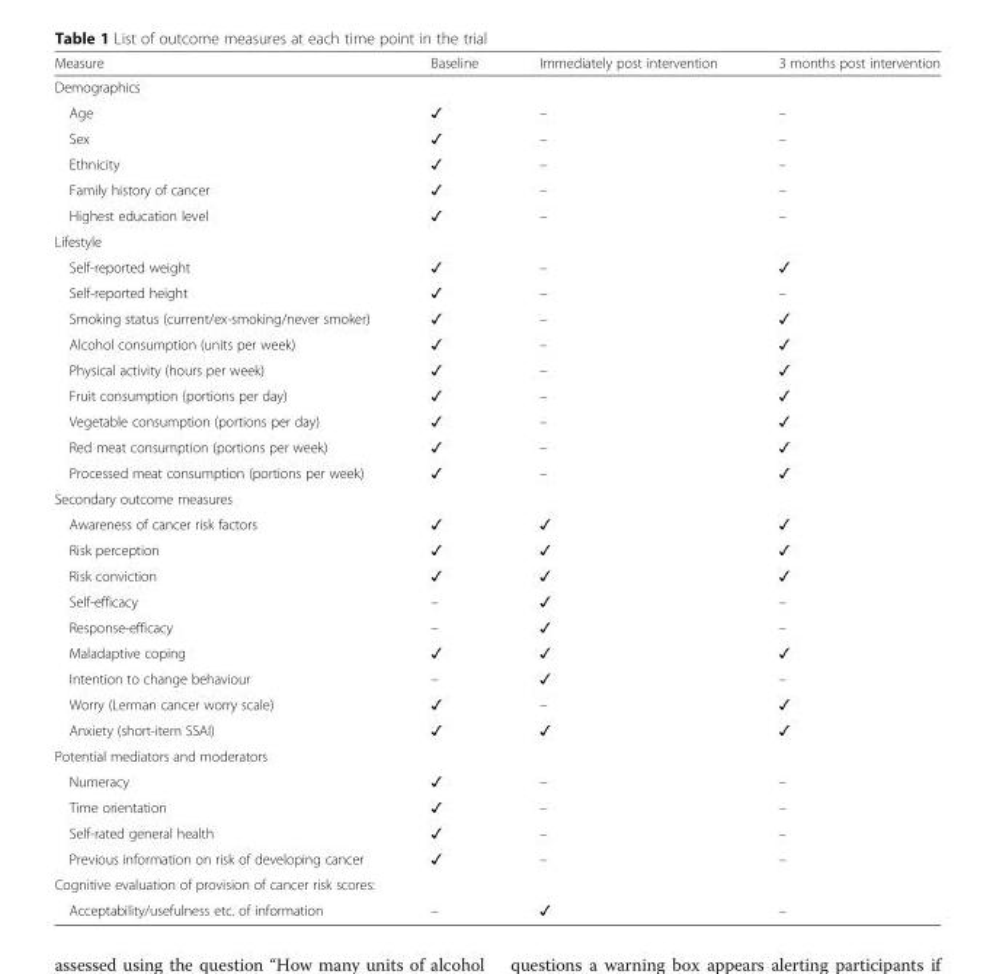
<table><thead><tr><td>Measure</td><td>Baseline</td><td>Immediately post intervention</td><td>3 months post intervention</td></tr></thead><tbody><tr><td colspan="4">Demographics</td></tr><tr><td>Age</td><td>✓</td><td>–</td><td>–</td></tr><tr><td>Sex</td><td>✓</td><td>–</td><td>–</td></tr><tr><td>Ethnicity</td><td>✓</td><td>–</td><td>–</td></tr><tr><td>Family history of cancer</td><td>✓</td><td>–</td><td>–</td></tr><tr><td>Highest education level</td><td>✓</td><td>–</td><td>–</td></tr><tr><td colspan="4">Lifestyle</td></tr><tr><td>Self-reported weight</td><td>✓</td><td>–</td><td>✓</td></tr><tr><td>Self-reported height</td><td>✓</td><td>–</td><td>–</td></tr><tr><td>Smoking status (current/ex-smoking/never smoker)</td><td>✓</td><td>–</td><td>✓</td></tr><tr><td>Alcohol consumption (units per week)</td><td>✓</td><td>–</td><td>✓</td></tr><tr><td>Physical activity (hours per week)</td><td>✓</td><td>–</td><td>✓</td></tr><tr><td>Fruit consumption (portions per day)</td><td>✓</td><td>–</td><td>✓</td></tr><tr><td>Vegetable consumption (portions per day)</td><td>✓</td><td>–</td><td>✓</td></tr><tr><td>Red meat consumption (portions per week)</td><td>✓</td><td>–</td><td>✓</td></tr><tr><td>Processed meat consumption (portions per week)</td><td>✓</td><td>–</td><td>✓</td></tr><tr><td colspan="4">Secondary outcome measures</td></tr><tr><td>Awareness of cancer risk factors</td><td>✓</td><td>✓</td><td>✓</td></tr><tr><td>Risk perception</td><td>✓</td><td>✓</td><td>✓</td></tr><tr><td>Risk conviction</td><td>✓</td><td>✓</td><td>✓</td></tr><tr><td>Self-efficacy</td><td>–</td><td>✓</td><td>–</td></tr><tr><td>Response-efficacy</td><td>–</td><td>✓</td><td>–</td></tr><tr><td>Maladaptive coping</td><td>✓</td><td>✓</td><td>✓</td></tr><tr><td>Intention to change behaviour</td><td>–</td><td>✓</td><td>–</td></tr><tr><td>Worry (Lerman cancer worry scale)</td><td>✓</td><td>–</td><td>✓</td></tr><tr><td>Anxiety (short-item SSAI)</td><td>✓</td><td>✓</td><td>✓</td></tr><tr><td colspan="4">Potential mediators and moderators</td></tr><tr><td>Numeracy</td><td>✓</td><td>–</td><td>–</td></tr><tr><td>Time orientation</td><td>✓</td><td>–</td><td>–</td></tr><tr><td>Self-rated general health</td><td>✓</td><td>–</td><td>–</td></tr><tr><td>Previous information on risk of developing cancer</td><td>✓</td><td>–</td><td>–</td></tr><tr><td colspan="4">Cognitive evaluation of provision of cancer risk scores:</td></tr><tr><td>Acceptability/usefulness etc. of information</td><td>–</td><td>✓</td><td>–</td></tr></tbody></table>